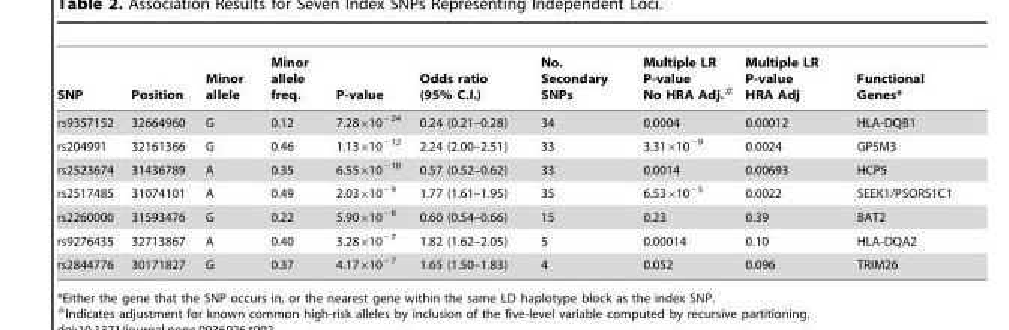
<table><thead><tr><td>SNP</td><td>Position</td><td>Minor allele</td><td>Minor allele freq.</td><td>P-value</td><td>Odds ratio (95% C.I.)</td><td>No. Secondary SNPs</td><td>Multiple LR P-value No HRA Adj.#</td><td>Multiple LR P-value HRA Adj</td><td>Functional Genes*</td></tr></thead><tbody><tr><td>rs9357152</td><td>32664960</td><td>G</td><td>0.12</td><td>7.28×10<sup>−24</sup></td><td>0.24 (0.21–0.28)</td><td>34</td><td>0.0004</td><td>0.00012</td><td>HLA-DQB1</td></tr><tr><td>rs204991</td><td>32161366</td><td>G</td><td>0.46</td><td>1.13×10<sup>−12</sup></td><td>2.24 (2.00–2.51)</td><td>33</td><td>3.31×10<sup>−9</sup></td><td>0.0024</td><td>GPSM3</td></tr><tr><td>rs2523674</td><td>31436789</td><td>A</td><td>0.35</td><td>6.55×10<sup>−10</sup></td><td>0.57 (0.52–0.62)</td><td>33</td><td>0.0014</td><td>0.00693</td><td>HCP5</td></tr><tr><td>rs2517485</td><td>31074101</td><td>A</td><td>0.49</td><td>2.03×10<sup>−9</sup></td><td>1.77 (1.61–1.95)</td><td>35</td><td>6.53×10<sup>−5</sup></td><td>0.0022</td><td>SEEK1/PSORS1C1</td></tr><tr><td>rs2260000</td><td>31593476</td><td>G</td><td>0.22</td><td>5.90×10<sup>−8</sup></td><td>0.60 (0.54–0.66)</td><td>15</td><td>0.23</td><td>0.39</td><td>BAT2</td></tr><tr><td>rs9276435</td><td>32713867</td><td>A</td><td>0.40</td><td>3.28×10<sup>−7</sup></td><td>1.82 (1.62–2.05)</td><td>5</td><td>0.00014</td><td>0.10</td><td>HLA-DQA2</td></tr><tr><td>rs2844776</td><td>30171827</td><td>G</td><td>0.37</td><td>4.17×10<sup>−7</sup></td><td>1.65 (1.50–1.83)</td><td>4</td><td>0.052</td><td>0.096</td><td>TRIM26</td></tr></tbody></table>